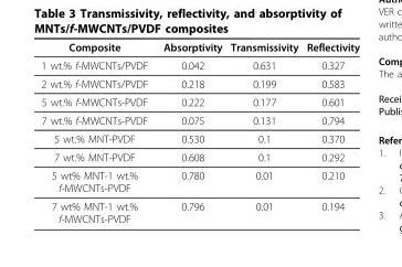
<table><thead><tr><td>Composite</td><td>Absorptivity</td><td>Transmissivity</td><td>Reflectivity</td></tr></thead><tbody><tr><td>1 wt.% f-MWCNTs/PVDF</td><td>0.042</td><td>0.631</td><td>0.327</td></tr><tr><td>2 wt.% f-MWCNTs/PVDF</td><td>0.218</td><td>0.199</td><td>0.583</td></tr><tr><td>5 wt.% f-MWCNTs-PVDF</td><td>0.222</td><td>0.177</td><td>0.601</td></tr><tr><td>7 wt.% f-MWCNTs-PVDF</td><td>0.075</td><td>0.131</td><td>0.794</td></tr><tr><td>5 wt.% MNT-PVDF</td><td>0.530</td><td>0.1</td><td>0.370</td></tr><tr><td>7 wt.% MNT-PVDF</td><td>0.608</td><td>0.1</td><td>0.292</td></tr><tr><td>5 wt% MNT-1 wt.% f-MWCNTs-PVDF</td><td>0.780</td><td>0.01</td><td>0.210</td></tr><tr><td>7 wt% MNT-1 wt.% f-MWCNTs-PVDF</td><td>0.796</td><td>0.01</td><td>0.194</td></tr></tbody></table>